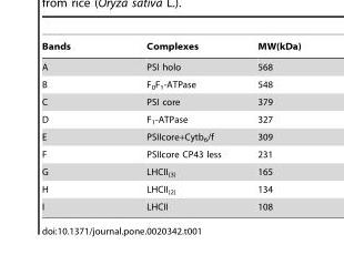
<table><thead><tr><td>Bands</td><td>Complexes</td><td>MW(kDa)</td></tr></thead><tbody><tr><td>A</td><td>PSI holo</td><td>568</td></tr><tr><td>B</td><td>F<sub>0</sub>F<sub>1</sub>-ATPase</td><td>548</td></tr><tr><td>C</td><td>PSI core</td><td>379</td></tr><tr><td>D</td><td>F<sub>1</sub>-ATPase</td><td>327</td></tr><tr><td>E</td><td>PSIIcore+Cytb<sub>6</sub>/f</td><td>309</td></tr><tr><td>F</td><td>PSIIcore CP43 less</td><td>231</td></tr><tr><td>G</td><td>LHCII<sub>(3)</sub></td><td>165</td></tr><tr><td>H</td><td>LHCII<sub>(2)</sub></td><td>134</td></tr><tr><td>I</td><td>LHCII</td><td>108</td></tr></tbody></table>